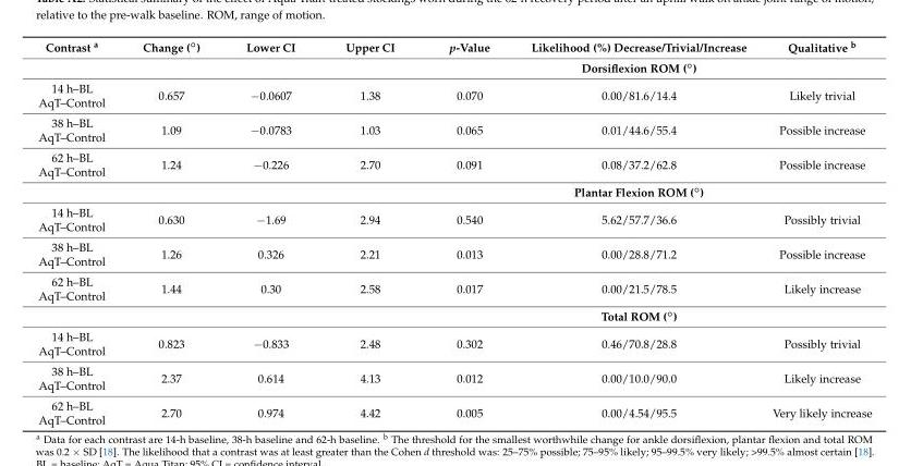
<table><thead><tr><td>Contrast <sup>a</sup></td><td>Change (◦)</td><td>Lower CI</td><td>Upper CI</td><td>p-Value</td><td>Likelihood (%) Decrease/Trivial/Increase</td><td>Qualitative <sup>b</sup></td></tr></thead><tbody><tr><td></td><td></td><td></td><td></td><td></td><td>Dorsiflexion ROM (◦)</td><td></td></tr><tr><td>14 h–BL AqT–Control</td><td>0.657</td><td>−0.0607</td><td>1.38</td><td>0.070</td><td>0.00/81.6/14.4</td><td>Likely trivial</td></tr><tr><td>38 h–BL AqT–Control</td><td>1.09</td><td>−0.0783</td><td>1.03</td><td>0.065</td><td>0.01/44.6/55.4</td><td>Possible increase</td></tr><tr><td rowspan="2">62 h–BL AqT–Control</td><td>1.24</td><td>−0.226</td><td>2.70</td><td>0.091</td><td>0.08/37.2/62.8</td><td>Possible increase</td></tr><tr><td></td><td></td><td></td><td></td><td>Plantar Flexion ROM (◦)</td><td></td></tr><tr><td>14 h–BL AqT–Control</td><td>0.630</td><td>−1.69</td><td>2.94</td><td>0.540</td><td>5.62/57.7/36.6</td><td>Possibly trivial</td></tr><tr><td>38 h–BL AqT–Control</td><td>1.26</td><td>0.326</td><td>2.21</td><td>0.013</td><td>0.00/28.8/71.2</td><td>Possible increase</td></tr><tr><td rowspan="2">62 h–BL AqT–Control</td><td>1.44</td><td>0.30</td><td>2.58</td><td>0.017</td><td>0.00/21.5/78.5</td><td>Likely increase</td></tr><tr><td></td><td></td><td></td><td></td><td>Total ROM (◦)</td><td></td></tr><tr><td>14 h–BL AqT–Control</td><td>0.823</td><td>−0.833</td><td>2.48</td><td>0.302</td><td>0.46/70.8/28.8</td><td>Possibly trivial</td></tr><tr><td>38 h–BL AqT–Control</td><td>2.37</td><td>0.614</td><td>4.13</td><td>0.012</td><td>0.00/10.0/90.0</td><td>Likely increase</td></tr><tr><td>62 h–BL AqT–Control</td><td>2.70</td><td>0.974</td><td>4.42</td><td>0.005</td><td>0.00/4.54/95.5</td><td>Very likely increase</td></tr></tbody></table>